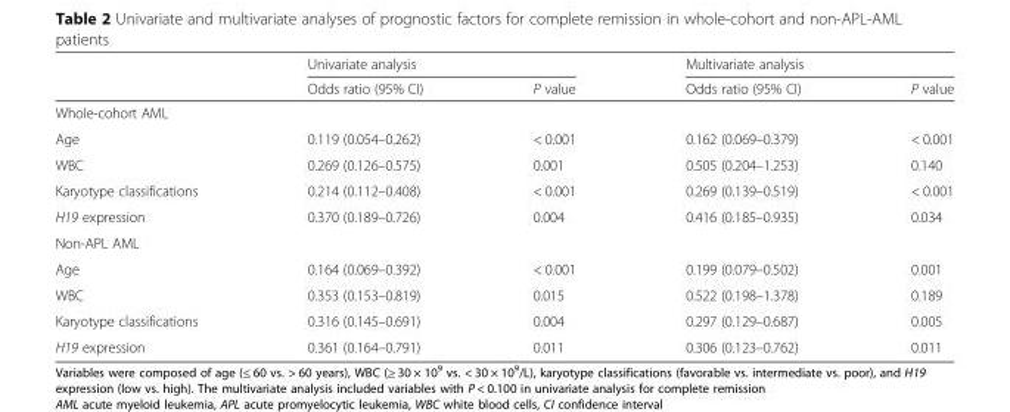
<table><thead><tr><td rowspan="2"></td><td colspan="2">Univariate analysis</td><td colspan="2">Multivariate analysis</td></tr><tr><td>Odds ratio (95% CI)</td><td>P value</td><td>Odds ratio (95% CI)</td><td>P value</td></tr></thead><tbody><tr><td colspan="5">Whole-cohort AML</td></tr><tr><td>Age</td><td>0.119 (0.054–0.262)</td><td>&lt; 0.001</td><td>0.162 (0.069–0.379)</td><td>&lt; 0.001</td></tr><tr><td>WBC</td><td>0.269 (0.126–0.575)</td><td>0.001</td><td>0.505 (0.204–1.253)</td><td>0.140</td></tr><tr><td>Karyotype classifications</td><td>0.214 (0.112–0.408)</td><td>&lt; 0.001</td><td>0.269 (0.139–0.519)</td><td>&lt; 0.001</td></tr><tr><td>H19 expression</td><td>0.370 (0.189–0.726)</td><td>0.004</td><td>0.416 (0.185–0.935)</td><td>0.034</td></tr><tr><td colspan="5">Non-APL AML</td></tr><tr><td>Age</td><td>0.164 (0.069–0.392)</td><td>&lt; 0.001</td><td>0.199 (0.079–0.502)</td><td>0.001</td></tr><tr><td>WBC</td><td>0.353 (0.153–0.819)</td><td>0.015</td><td>0.522 (0.198–1.378)</td><td>0.189</td></tr><tr><td>Karyotype classifications</td><td>0.316 (0.145–0.691)</td><td>0.004</td><td>0.297 (0.129–0.687)</td><td>0.005</td></tr><tr><td>H19 expression</td><td>0.361 (0.164–0.791)</td><td>0.011</td><td>0.306 (0.123–0.762)</td><td>0.011</td></tr></tbody></table>